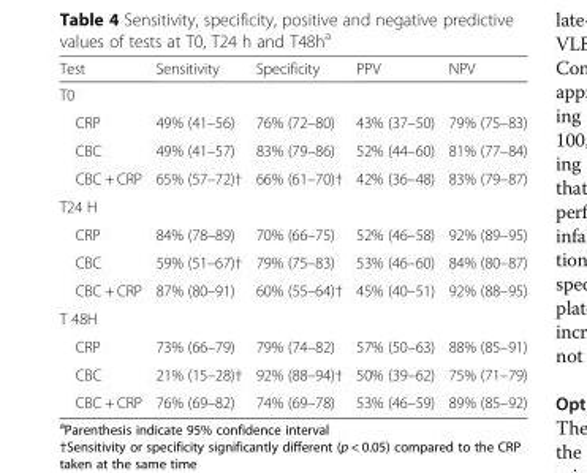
<table><thead><tr><td>Test</td><td>Sensitivity</td><td>Specificity</td><td>PPV</td><td>NPV</td></tr></thead><tbody><tr><td colspan="5">T0</td></tr><tr><td>CRP</td><td>49% (41–56)</td><td>76% (72–80)</td><td>43% (37–50)</td><td>79% (75–83)</td></tr><tr><td>CBC</td><td>49% (41–57)</td><td>83% (79–86)</td><td>52% (44–60)</td><td>81% (77–84)</td></tr><tr><td>CBC + CRP</td><td>65% (57–72)†</td><td>66% (61–70)†</td><td>42% (36–48)</td><td>83% (79–87)</td></tr><tr><td colspan="5">T24 H</td></tr><tr><td>CRP</td><td>84% (78–89)</td><td>70% (66–75)</td><td>52% (46–58)</td><td>92% (89–95)</td></tr><tr><td>CBC</td><td>59% (51–67)†</td><td>79% (75–83)</td><td>53% (46–60)</td><td>84% (80–87)</td></tr><tr><td>CBC + CRP</td><td>87% (80–91)</td><td>60% (55–64)†</td><td>45% (40–51)</td><td>92% (88–95)</td></tr><tr><td colspan="5">T 48H</td></tr><tr><td>CRP</td><td>73% (66–79)</td><td>79% (74–82)</td><td>57% (50–63)</td><td>88% (85–91)</td></tr><tr><td>CBC</td><td>21% (15–28)†</td><td>92% (88–94)†</td><td>50% (39–62)</td><td>75% (71–79)</td></tr><tr><td>CBC + CRP</td><td>76% (69–82)</td><td>74% (69–78)</td><td>53% (46–59)</td><td>89% (85–92)</td></tr></tbody></table>